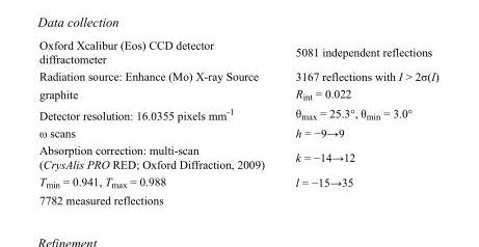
<table><tbody><tr><td>Oxford Xcalibur (Eos) CCD detector diffractometer</td><td>5081 independent reflections</td></tr><tr><td>Radiation source: Enhance (Mo) X-ray Source</td><td>3167 reflections with I &gt; 2σ(I)</td></tr><tr><td>graphite</td><td>R<sub>int</sub> = 0.022</td></tr><tr><td>Detector resolution: 16.0355 pixels mm<sup>-1</sup></td><td>θ<sub>max</sub> = 25.3°, θ<sub>min</sub> = 3.0°</td></tr><tr><td>ω scans</td><td>h = −9→9</td></tr><tr><td>Absorption correction: multi-scan (CrysAlis PRO RED; Oxford Diffraction, 2009)</td><td>k = −14→12</td></tr><tr><td>T<sub>min</sub> = 0.941, T<sub>max</sub> = 0.988</td><td>l = −15→35</td></tr><tr><td>7782 measured reflections</td><td></td></tr></tbody></table>